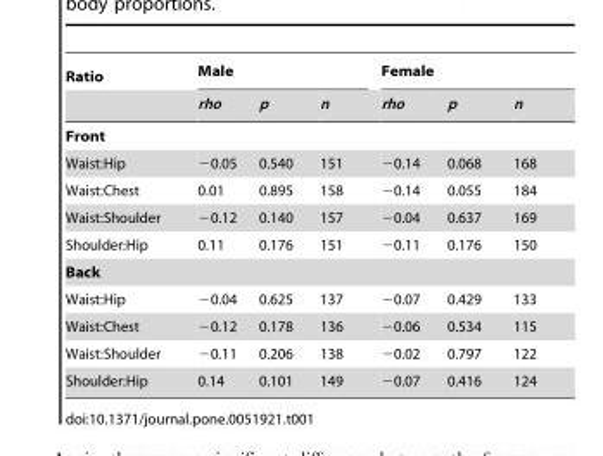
<table><thead><tr><td rowspan="2">Ratio</td><td colspan="3">Male</td><td colspan="3">Female</td></tr><tr><td>rho</td><td>p</td><td>n</td><td>rho</td><td>p</td><td>n</td></tr></thead><tbody><tr><td colspan="7">Front</td></tr><tr><td>Waist:Hip</td><td>−0.05</td><td>0.540</td><td>151</td><td>−0.14</td><td>0.068</td><td>168</td></tr><tr><td>Waist:Chest</td><td>0.01</td><td>0.895</td><td>158</td><td>−0.14</td><td>0.055</td><td>184</td></tr><tr><td>Waist:Shoulder</td><td>−0.12</td><td>0.140</td><td>157</td><td>−0.04</td><td>0.637</td><td>169</td></tr><tr><td>Shoulder:Hip</td><td>0.11</td><td>0.176</td><td>151</td><td>−0.11</td><td>0.176</td><td>150</td></tr><tr><td colspan="7">Back</td></tr><tr><td>Waist:Hip</td><td>−0.04</td><td>0.625</td><td>137</td><td>−0.07</td><td>0.429</td><td>133</td></tr><tr><td>Waist:Chest</td><td>−0.12</td><td>0.178</td><td>136</td><td>−0.06</td><td>0.534</td><td>115</td></tr><tr><td>Waist:Shoulder</td><td>−0.11</td><td>0.206</td><td>138</td><td>−0.02</td><td>0.797</td><td>122</td></tr><tr><td>Shoulder:Hip</td><td>0.14</td><td>0.101</td><td>149</td><td>−0.07</td><td>0.416</td><td>124</td></tr></tbody></table>